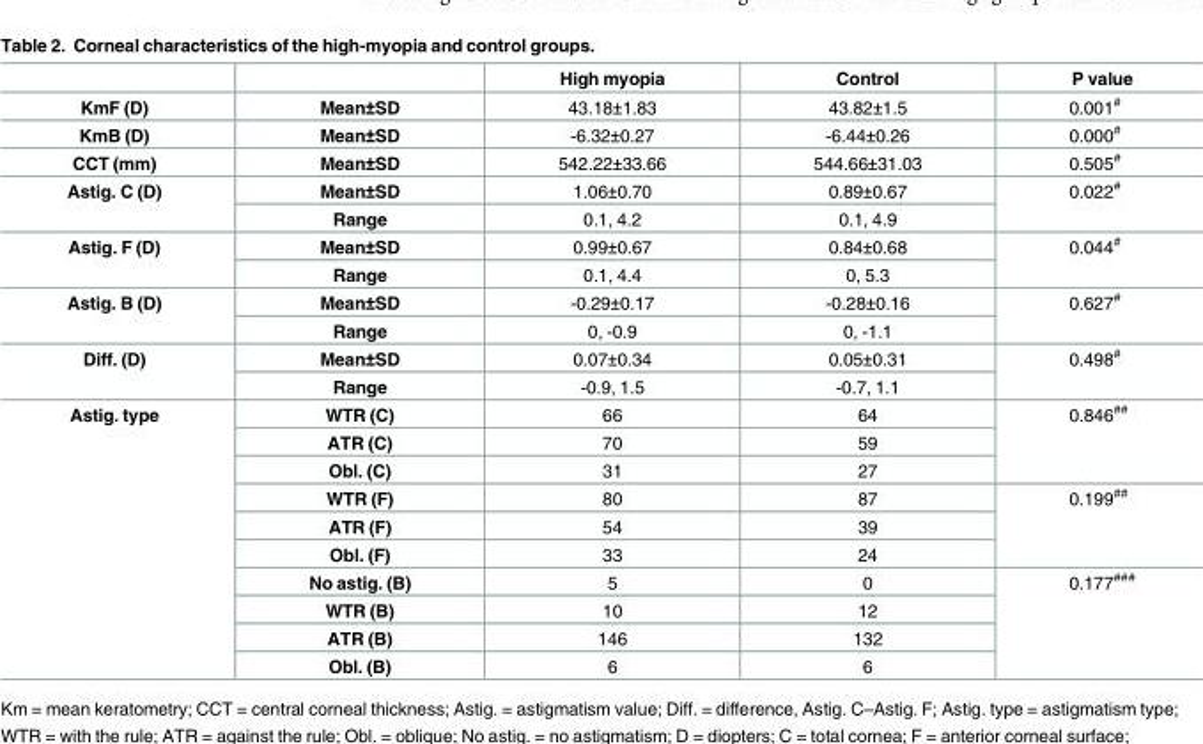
<table><thead><tr><td></td><td></td><td>High myopia</td><td>Control</td><td>P value</td></tr></thead><tbody><tr><td>KmF (D)</td><td>Mean±SD</td><td>43.18±1.83</td><td>43.82±1.5</td><td>0.001<sup>#</sup></td></tr><tr><td>KmB (D)</td><td>Mean±SD</td><td>-6.32±0.27</td><td>-6.44±0.26</td><td>0.000<sup>#</sup></td></tr><tr><td>CCT (mm)</td><td>Mean±SD</td><td>542.22±33.66</td><td>544.66±31.03</td><td>0.505<sup>#</sup></td></tr><tr><td rowspan="2">Astig. C (D)</td><td>Mean±SD</td><td>1.06±0.70</td><td>0.89±0.67</td><td rowspan="2">0.022<sup>#</sup></td></tr><tr><td>Range</td><td>0.1, 4.2</td><td>0.1, 4.9</td></tr><tr><td rowspan="2">Astig. F (D)</td><td>Mean±SD</td><td>0.99±0.67</td><td>0.84±0.68</td><td rowspan="2">0.044<sup>#</sup></td></tr><tr><td>Range</td><td>0.1, 4.4</td><td>0, 5.3</td></tr><tr><td rowspan="2">Astig. B (D)</td><td>Mean±SD</td><td>-0.29±0.17</td><td>-0.28±0.16</td><td rowspan="2">0.627<sup>#</sup></td></tr><tr><td>Range</td><td>0, -0.9</td><td>0, -1.1</td></tr><tr><td rowspan="2">Diff. (D)</td><td>Mean±SD</td><td>0.07±0.34</td><td>0.05±0.31</td><td rowspan="2">0.498<sup>#</sup></td></tr><tr><td>Range</td><td>-0.9, 1.5</td><td>-0.7, 1.1</td></tr><tr><td rowspan="10">Astig. type</td><td>WTR (C)</td><td>66</td><td>64</td><td rowspan="3">0.846<sup>##</sup></td></tr><tr><td>ATR (C)</td><td>70</td><td>59</td></tr><tr><td>Obl. (C)</td><td>31</td><td>27</td></tr><tr><td>WTR (F)</td><td>80</td><td>87</td><td rowspan="3">0.199<sup>##</sup></td></tr><tr><td>ATR (F)</td><td>54</td><td>39</td></tr><tr><td>Obl. (F)</td><td>33</td><td>24</td></tr><tr><td>No astig. (B)</td><td>5</td><td>0</td><td rowspan="4">0.177<sup>###</sup></td></tr><tr><td>WTR (B)</td><td>10</td><td>12</td></tr><tr><td>ATR (B)</td><td>146</td><td>132</td></tr><tr><td>Obl. (B)</td><td>6</td><td>6</td></tr></tbody></table>